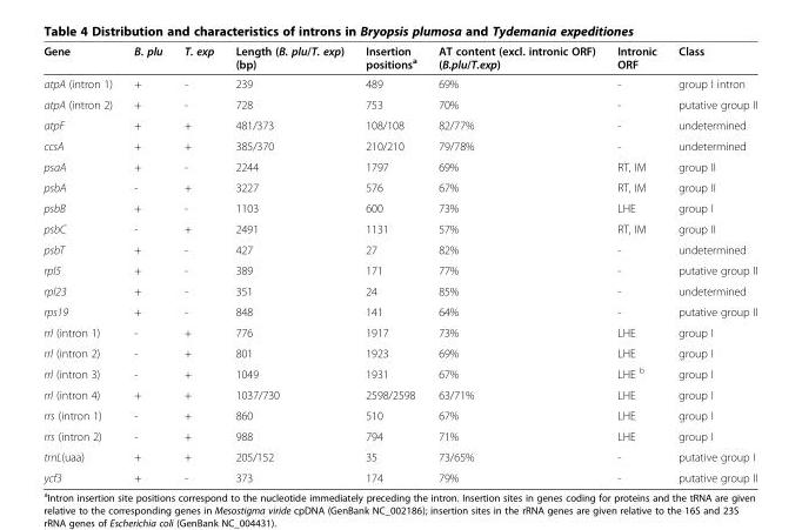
<table><thead><tr><td>Gene</td><td>B. plu</td><td>T. exp</td><td>Length (B. plu/T. exp) (bp)</td><td>Insertion positions<sup>a</sup></td><td>AT content (excl. intronic ORF) (B.plu/T.exp)</td><td>Intronic ORF</td><td>Class</td></tr></thead><tbody><tr><td>atpA (intron 1)</td><td>+</td><td>-</td><td>239</td><td>489</td><td>69%</td><td>-</td><td>group I intron</td></tr><tr><td>atpA (intron 2)</td><td>+</td><td>-</td><td>728</td><td>753</td><td>70%</td><td>-</td><td>putative group II</td></tr><tr><td>atpF</td><td>+</td><td>+</td><td>481/373</td><td>108/108</td><td>82/77%</td><td>-</td><td>undetermined</td></tr><tr><td>ccsA</td><td>+</td><td>+</td><td>385/370</td><td>210/210</td><td>79/78%</td><td>-</td><td>undetermined</td></tr><tr><td>psaA</td><td>+</td><td>-</td><td>2244</td><td>1797</td><td>69%</td><td>RT, IM</td><td>group II</td></tr><tr><td>psbA</td><td>-</td><td>+</td><td>3227</td><td>576</td><td>67%</td><td>RT, IM</td><td>group II</td></tr><tr><td>psbB</td><td>+</td><td>-</td><td>1103</td><td>600</td><td>73%</td><td>LHE</td><td>group I</td></tr><tr><td>psbC</td><td>-</td><td>+</td><td>2491</td><td>1131</td><td>57%</td><td>RT, IM</td><td>group II</td></tr><tr><td>psbT</td><td>+</td><td>-</td><td>427</td><td>27</td><td>82%</td><td>-</td><td>undetermined</td></tr><tr><td>rpl5</td><td>+</td><td>-</td><td>389</td><td>171</td><td>77%</td><td>-</td><td>putative group II</td></tr><tr><td>rpl23</td><td>+</td><td>-</td><td>351</td><td>24</td><td>85%</td><td>-</td><td>undetermined</td></tr><tr><td>rps19</td><td>+</td><td>-</td><td>848</td><td>141</td><td>64%</td><td>-</td><td>putative group II</td></tr><tr><td>rrl (intron 1)</td><td>-</td><td>+</td><td>776</td><td>1917</td><td>73%</td><td>LHE</td><td>group I</td></tr><tr><td>rrl (intron 2)</td><td>-</td><td>+</td><td>801</td><td>1923</td><td>69%</td><td>LHE</td><td>group I</td></tr><tr><td>rrl (intron 3)</td><td>-</td><td>+</td><td>1049</td><td>1931</td><td>67%</td><td>LHE <sup>b</sup></td><td>group I</td></tr><tr><td>rrl (intron 4)</td><td>+</td><td>+</td><td>1037/730</td><td>2598/2598</td><td>63/71%</td><td>LHE</td><td>group I</td></tr><tr><td>rrs (intron 1)</td><td>-</td><td>+</td><td>860</td><td>510</td><td>67%</td><td>LHE</td><td>group I</td></tr><tr><td>rrs (intron 2)</td><td>-</td><td>+</td><td>988</td><td>794</td><td>71%</td><td>LHE</td><td>group I</td></tr><tr><td>trnL(uaa)</td><td>+</td><td>+</td><td>205/152</td><td>35</td><td>73/65%</td><td>-</td><td>putative group I</td></tr><tr><td>ycf3</td><td>+</td><td>-</td><td>373</td><td>174</td><td>79%</td><td>-</td><td>putative group II</td></tr></tbody></table>